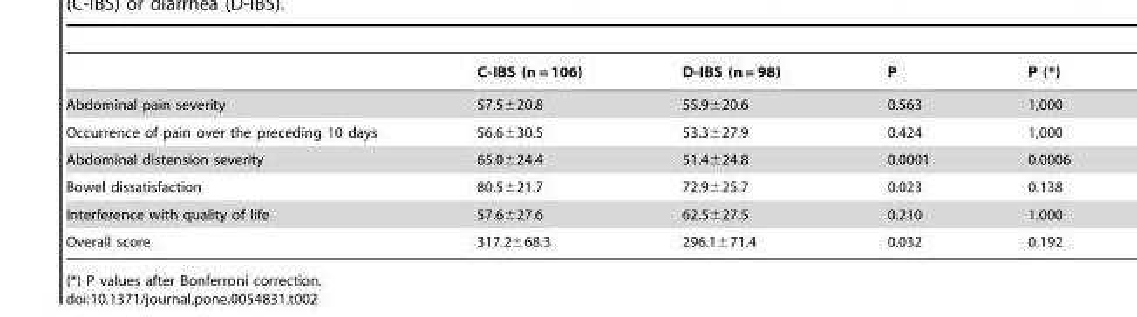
<table><thead><tr><td></td><td>C-IBS (n = 106)</td><td>D-IBS (n = 98)</td><td>P</td><td>P (*)</td></tr></thead><tbody><tr><td>Abdominal pain severity</td><td>57.5±20.8</td><td>55.9±20.6</td><td>0.563</td><td>1,000</td></tr><tr><td>Occurrence of pain over the preceding 10 days</td><td>56.6±30.5</td><td>53.3±27.9</td><td>0.424</td><td>1,000</td></tr><tr><td>Abdominal distension severity</td><td>65.0±24.4</td><td>51.4±24.8</td><td>0.0001</td><td>0.0006</td></tr><tr><td>Bowel dissatisfaction</td><td>80.5±21.7</td><td>72.9±25.7</td><td>0.023</td><td>0.138</td></tr><tr><td>Interference with quality of life</td><td>57.6±27.6</td><td>62.5±27.5</td><td>0.210</td><td>1.000</td></tr><tr><td>Overall score</td><td>317.2±68.3</td><td>296.1±71.4</td><td>0.032</td><td>0.192</td></tr></tbody></table>